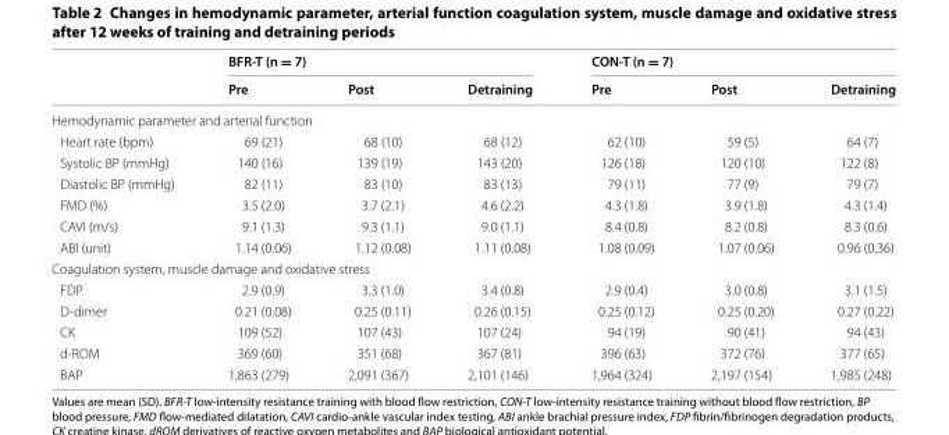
<table><thead><tr><td rowspan="2"></td><td colspan="3">BFR-T (n = 7)</td><td colspan="3">CON-T (n = 7)</td></tr><tr><td>Pre</td><td>Post</td><td>Detraining</td><td>Pre</td><td>Post</td><td>Detraining</td></tr></thead><tbody><tr><td colspan="7">Hemodynamic parameter and arterial function</td></tr><tr><td>Heart rate (bpm)</td><td>69 (21)</td><td>68 (10)</td><td>68 (12)</td><td>62 (10)</td><td>59 (5)</td><td>64 (7)</td></tr><tr><td>Systolic BP (mmHg)</td><td>140 (16)</td><td>139 (19)</td><td>143 (20)</td><td>126 (18)</td><td>120 (10)</td><td>122 (8)</td></tr><tr><td>Diastolic BP (mmHg)</td><td>82 (11)</td><td>83 (10)</td><td>83 (13)</td><td>79 (11)</td><td>77 (9)</td><td>79 (7)</td></tr><tr><td>FMD (%)</td><td>3.5 (2.0)</td><td>3.7 (2.1)</td><td>4.6 (2.2)</td><td>4.3 (1.8)</td><td>3.9 (1.8)</td><td>4.3 (1.4)</td></tr><tr><td>CAVI (m/s)</td><td>9.1 (1.3)</td><td>9.3 (1.1)</td><td>9.0 (1.1)</td><td>8.4 (0.8)</td><td>8.2 (0.8)</td><td>8.3 (0.6)</td></tr><tr><td>ABI (unit)</td><td>1.14 (0.06)</td><td>1.12 (0.08)</td><td>1.11 (0.08)</td><td>1.08 (0.09)</td><td>1.07 (0.06)</td><td>0.96 (0.36)</td></tr><tr><td colspan="7">Coagulation system, muscle damage and oxidative stress</td></tr><tr><td>FDP</td><td>2.9 (0.9)</td><td>3.3 (1.0)</td><td>3.4 (0.8)</td><td>2.9 (0.4)</td><td>3.0 (0.8)</td><td>3.1 (1.5)</td></tr><tr><td>D-dimer</td><td>0.21 (0.08)</td><td>0.25 (0.11)</td><td>0.26 (0.15)</td><td>0.25 (0.12)</td><td>0.25 (0.20)</td><td>0.27 (0.22)</td></tr><tr><td>CK</td><td>109 (52)</td><td>107 (43)</td><td>107 (24)</td><td>94 (19)</td><td>90 (41)</td><td>94 (43)</td></tr><tr><td>d-ROM</td><td>369 (60)</td><td>351 (68)</td><td>367 (81)</td><td>396 (63)</td><td>372 (76)</td><td>377 (65)</td></tr><tr><td>BAP</td><td>1,863 (279)</td><td>2,091 (367)</td><td>2,101 (146)</td><td>1,964 (324)</td><td>2,197 (154)</td><td>1,985 (248)</td></tr></tbody></table>